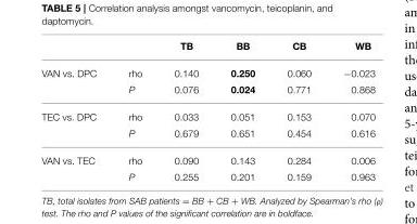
<table><thead><tr><td></td><td></td><td>TB</td><td>BB</td><td>CB</td><td>WB</td></tr></thead><tbody><tr><td rowspan="2">VAN vs. DPC</td><td>rho</td><td>0.140</td><td>0.250</td><td>0.060</td><td>−0.023</td></tr><tr><td>P</td><td>0.076</td><td>0.024</td><td>0.771</td><td>0.868</td></tr><tr><td rowspan="2">TEC vs. DPC</td><td>rho</td><td>0.033</td><td>0.051</td><td>0.153</td><td>0.070</td></tr><tr><td>P</td><td>0.679</td><td>0.651</td><td>0.454</td><td>0.616</td></tr><tr><td rowspan="2">VAN vs. TEC</td><td>rho</td><td>0.090</td><td>0.143</td><td>0.284</td><td>0.006</td></tr><tr><td>P</td><td>0.255</td><td>0.201</td><td>0.159</td><td>0.963</td></tr></tbody></table>